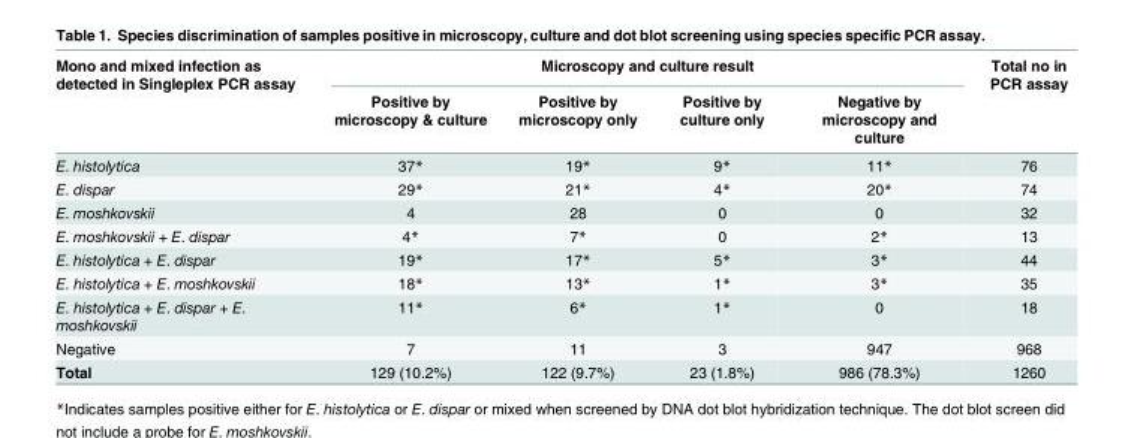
<table><thead><tr><td rowspan="2">Mono and mixed infection as detected in Singleplex PCR assay</td><td colspan="4">Microscopy and culture result</td><td rowspan="2">Total no in PCR assay</td></tr><tr><td>Positive by microscopy &amp; culture</td><td>Positive by microscopy only</td><td>Positive by culture only</td><td>Negative by microscopy and culture</td></tr></thead><tbody><tr><td>E. histolytica</td><td>37*</td><td>19*</td><td>9*</td><td>11*</td><td>76</td></tr><tr><td>E. dispar</td><td>29*</td><td>21*</td><td>4*</td><td>20*</td><td>74</td></tr><tr><td>E. moshkovskii</td><td>4</td><td>28</td><td>0</td><td>0</td><td>32</td></tr><tr><td>E. moshkovskii + E. dispar</td><td>4*</td><td>7*</td><td>0</td><td>2*</td><td>13</td></tr><tr><td>E. histolytica + E. dispar</td><td>19*</td><td>17*</td><td>5*</td><td>3*</td><td>44</td></tr><tr><td>E. histolytica + E. moshkovskii</td><td>18*</td><td>13*</td><td>1*</td><td>3*</td><td>35</td></tr><tr><td>E. histolytica + E. dispar + E. moshkovskii</td><td>11*</td><td>6*</td><td>1*</td><td>0</td><td>18</td></tr><tr><td>Negative</td><td>7</td><td>11</td><td>3</td><td>947</td><td>968</td></tr><tr><td>Total</td><td>129 (10.2%)</td><td>122 (9.7%)</td><td>23 (1.8%)</td><td>986 (78.3%)</td><td>1260</td></tr></tbody></table>